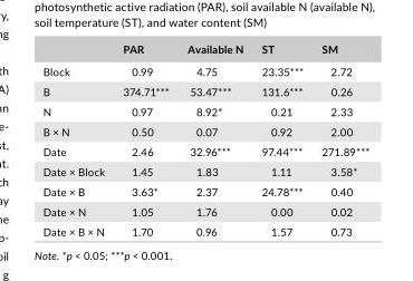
<table><thead><tr><td></td><td>PAR</td><td>Available N</td><td>ST</td><td>SM</td></tr></thead><tbody><tr><td>Block</td><td>0.99</td><td>4.75</td><td>23.35***</td><td>2.72</td></tr><tr><td>B</td><td>374.71***</td><td>53.47***</td><td>131.6***</td><td>0.26</td></tr><tr><td>N</td><td>0.97</td><td>8.92*</td><td>0.21</td><td>2.33</td></tr><tr><td>B × N</td><td>0.50</td><td>0.07</td><td>0.92</td><td>2.00</td></tr><tr><td>Date</td><td>2.46</td><td>32.96***</td><td>97.44***</td><td>271.89***</td></tr><tr><td>Date × Block</td><td>1.45</td><td>1.83</td><td>1.11</td><td>3.58*</td></tr><tr><td>Date × B</td><td>3.63*</td><td>2.37</td><td>24.78***</td><td>0.40</td></tr><tr><td>Date × N</td><td>1.05</td><td>1.76</td><td>0.00</td><td>0.02</td></tr><tr><td>Date × B × N</td><td>1.70</td><td>0.96</td><td>1.57</td><td>0.73</td></tr></tbody></table>